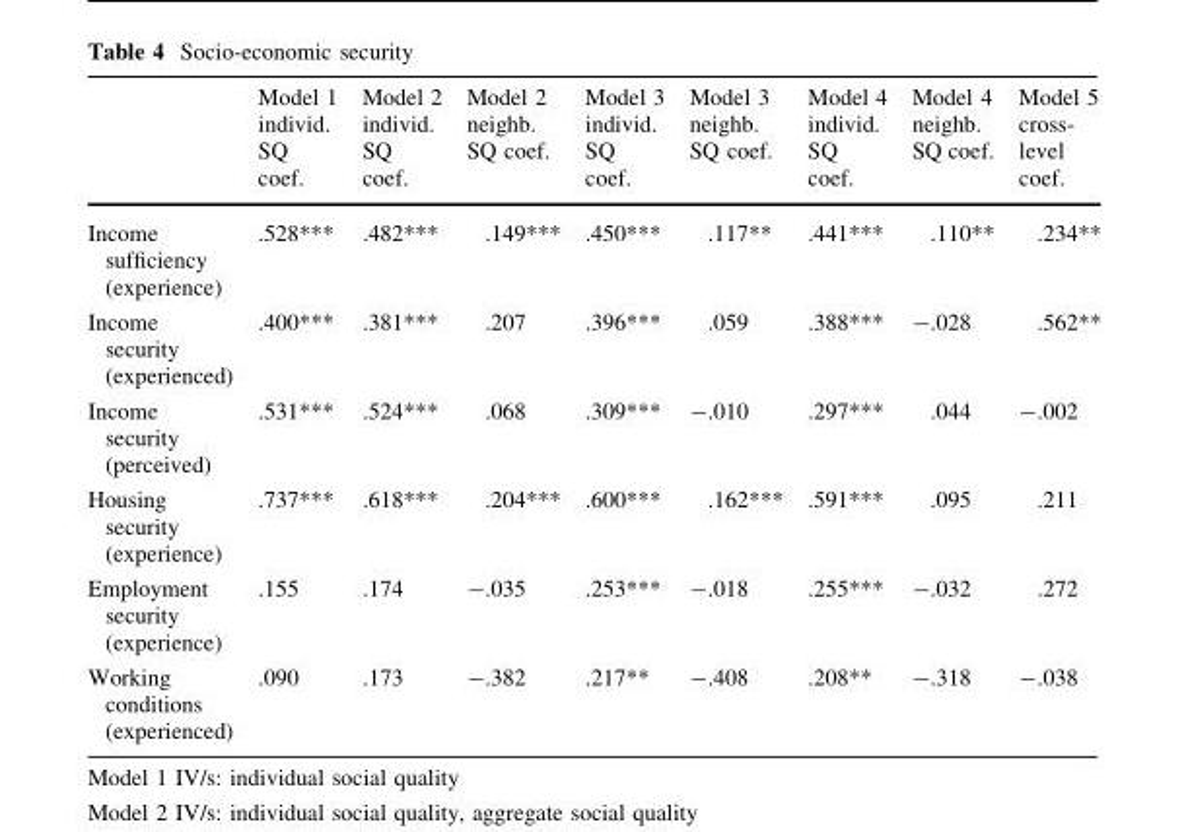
<table><thead><tr><td></td><td>Model 1 individ. SQ coef.</td><td>Model 2 individ. SQ coef.</td><td>Model 2 neighb. SQ coef.</td><td>Model 3 individ. SQ coef.</td><td>Model 3 neighb. SQ coef.</td><td>Model 4 individ. SQ coef.</td><td>Model 4 neighb. SQ coef.</td><td>Model 5 cross- level coef.</td></tr></thead><tbody><tr><td>Income sufficiency (experience)</td><td>.528***</td><td>.482***</td><td>.149***</td><td>.450***</td><td>.117**</td><td>.441***</td><td>.110**</td><td>.234**</td></tr><tr><td>Income security (experienced)</td><td>.400***</td><td>.381***</td><td>.207</td><td>.396***</td><td>.059</td><td>.388***</td><td>-.028</td><td>.562**</td></tr><tr><td>Income security (perceived)</td><td>.531***</td><td>.524***</td><td>.068</td><td>.309***</td><td>-.010</td><td>.297***</td><td>.044</td><td>-.002</td></tr><tr><td>Housing security (experience)</td><td>.737***</td><td>.618***</td><td>.204***</td><td>.600***</td><td>.162***</td><td>.591***</td><td>.095</td><td>.211</td></tr><tr><td>Employment security (experience)</td><td>.155</td><td>.174</td><td>-.035</td><td>.253***</td><td>-.018</td><td>.255***</td><td>-.032</td><td>.272</td></tr><tr><td>Working conditions (experienced)</td><td>.090</td><td>.173</td><td>-.382</td><td>.217**</td><td>-.408</td><td>.208**</td><td>-.318</td><td>-.038</td></tr></tbody></table>